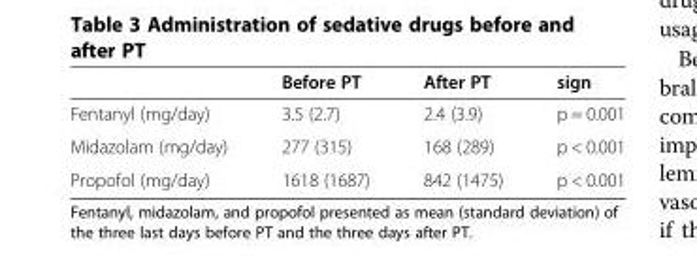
<table><thead><tr><td></td><td>Before PT</td><td>After PT</td><td>sign</td></tr></thead><tbody><tr><td>Fentanyl (mg/day)</td><td>3.5 (2.7)</td><td>2.4 (3.9)</td><td>p = 0.001</td></tr><tr><td>Midazolam (mg/day)</td><td>277 (315)</td><td>168 (289)</td><td>p &lt; 0.001</td></tr><tr><td>Propofol (mg/day)</td><td>1618 (1687)</td><td>842 (1475)</td><td>p &lt; 0.001</td></tr></tbody></table>